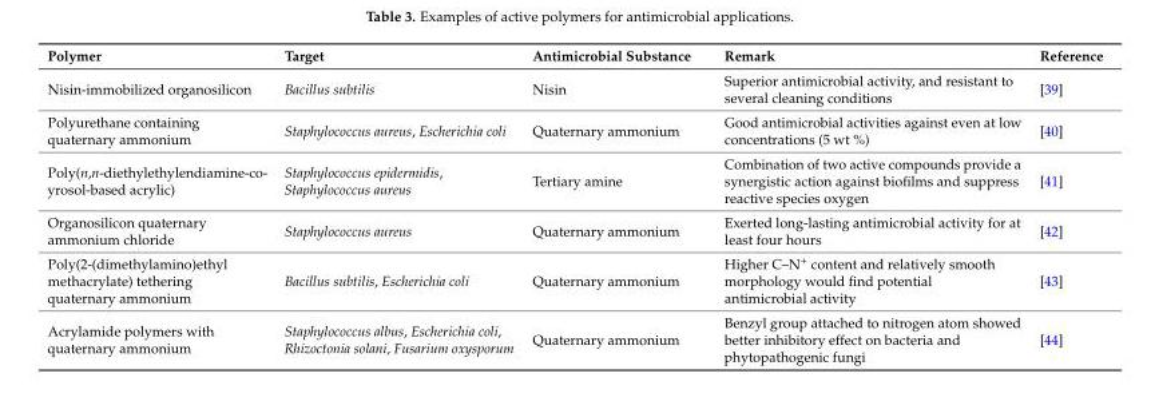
<table><thead><tr><td>Polymer</td><td>Target</td><td>Antimicrobial Substance</td><td>Remark</td><td>Reference</td></tr></thead><tbody><tr><td>Nisin-immobilized organosilicon</td><td>Bacillus subtilis</td><td>Nisin</td><td>Superior antimicrobial activity, and resistant to several cleaning conditions</td><td>[39]</td></tr><tr><td>Polyurethane containing quaternary ammonium</td><td>Staphylococcus aureus, Escherichia coli</td><td>Quaternary ammonium</td><td>Good antimicrobial activities against even at low concentrations (5 wt %)</td><td>[40]</td></tr><tr><td>Poly(n,n-diethylethylendiamine-co- yrosol-based acrylic)</td><td>Staphylococcus epidermidis, Staphylococcus aureus</td><td>Tertiary amine</td><td>Combination of two active compounds provide a synergistic action against biofilms and suppress reactive species oxygen</td><td>[41]</td></tr><tr><td>Organosilicon quaternary ammonium chloride</td><td>Staphylococcus aureus</td><td>Quaternary ammonium</td><td>Exerted long-lasting antimicrobial activity for at least four hours</td><td>[42]</td></tr><tr><td>Poly(2-(dimethylamino)ethyl methacrylate) tethering quaternary ammonium</td><td>Bacillus subtilis, Escherichia coli</td><td>Quaternary ammonium</td><td>Higher C–N<sup>+</sup> content and relatively smooth morphology would find potential antimicrobial activity</td><td>[43]</td></tr><tr><td>Acrylamide polymers with quaternary ammonium</td><td>Staphylococcus albus, Escherichia coli, Rhizoctonia solani, Fusarium oxysporum</td><td>Quaternary ammonium</td><td>Benzyl group attached to nitrogen atom showed better inhibitory effect on bacteria and phytopathogenic fungi</td><td>[44]</td></tr></tbody></table>